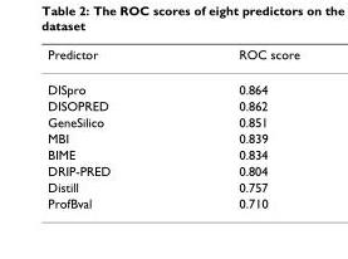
<table><thead><tr><td>Predictor</td><td>ROC score</td></tr></thead><tbody><tr><td>DISpro</td><td>0.864</td></tr><tr><td>DISOPRED</td><td>0.862</td></tr><tr><td>GeneSilico</td><td>0.851</td></tr><tr><td>MBI</td><td>0.839</td></tr><tr><td>BIME</td><td>0.834</td></tr><tr><td>DRIP-PRED</td><td>0.804</td></tr><tr><td>Distill</td><td>0.757</td></tr><tr><td>ProfBval</td><td>0.710</td></tr></tbody></table>